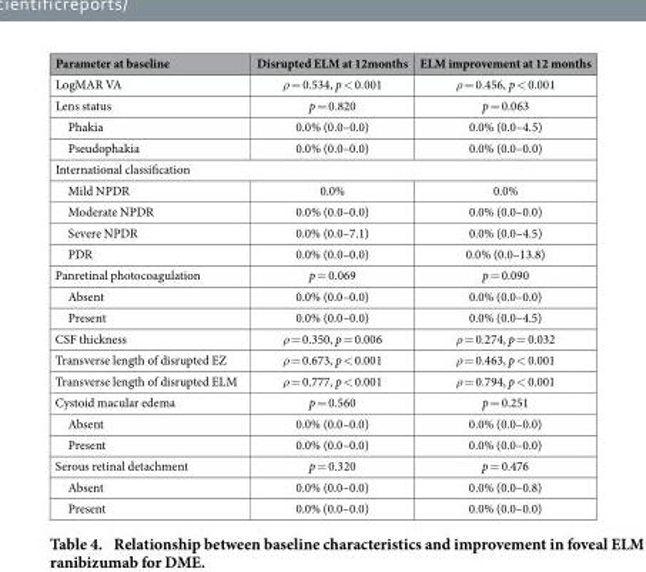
<table><thead><tr><td>Parameter at baseline</td><td>Disrupted ELM at 12months</td><td>ELM improvement at 12 months</td></tr></thead><tbody><tr><td>LogMAR VA</td><td>ρ = 0.534, p &lt; 0.001</td><td>ρ = 0.456, p &lt; 0.001</td></tr><tr><td>Lens status</td><td>p = 0.820</td><td>p = 0.063</td></tr><tr><td>Phakia</td><td>0.0% (0.0–0.0)</td><td>0.0% (0.0–4.5)</td></tr><tr><td>Pseudophakia</td><td>0.0% (0.0–0.0)</td><td>0.0% (0.0–0.0)</td></tr><tr><td colspan="3">International classification</td></tr><tr><td>Mild NPDR</td><td>0.0%</td><td>0.0%</td></tr><tr><td>Moderate NPDR</td><td>0.0% (0.0–0.0)</td><td>0.0% (0.0–0.0)</td></tr><tr><td>Severe NPDR</td><td>0.0% (0.0–7.1)</td><td>0.0% (0.0–4.5)</td></tr><tr><td>PDR</td><td>0.0% (0.0–0.0)</td><td>0.0% (0.0–13.8)</td></tr><tr><td>Panretinal photocoagulation</td><td>p = 0.069</td><td>p = 0.090</td></tr><tr><td>Absent</td><td>0.0% (0.0–0.0)</td><td>0.0% (0.0–0.0)</td></tr><tr><td>Present</td><td>0.0% (0.0–0.0)</td><td>0.0% (0.0–4.5)</td></tr><tr><td>CSF thickness</td><td>ρ = 0.350, p = 0.006</td><td>ρ = 0.274, p = 0.032</td></tr><tr><td>Transverse length of disrupted EZ</td><td>ρ = 0.673, p &lt; 0.001</td><td>ρ = 0.463, p &lt; 0.001</td></tr><tr><td>Transverse length of disrupted ELM</td><td>ρ = 0.777, p &lt; 0.001</td><td>ρ = 0.794, p &lt; 0.001</td></tr><tr><td>Cystoid macular edema</td><td>p = 0.560</td><td>p = 0.251</td></tr><tr><td>Absent</td><td>0.0% (0.0–0.0)</td><td>0.0% (0.0–0.0)</td></tr><tr><td>Present</td><td>0.0% (0.0–0.0)</td><td>0.0% (0.0–0.0)</td></tr><tr><td>Serous retinal detachment</td><td>p = 0.320</td><td>p = 0.476</td></tr><tr><td>Absent</td><td>0.0% (0.0–0.0)</td><td>0.0% (0.0–0.8)</td></tr><tr><td>Present</td><td>0.0% (0.0–0.0)</td><td>0.0% (0.0–0.0)</td></tr></tbody></table>